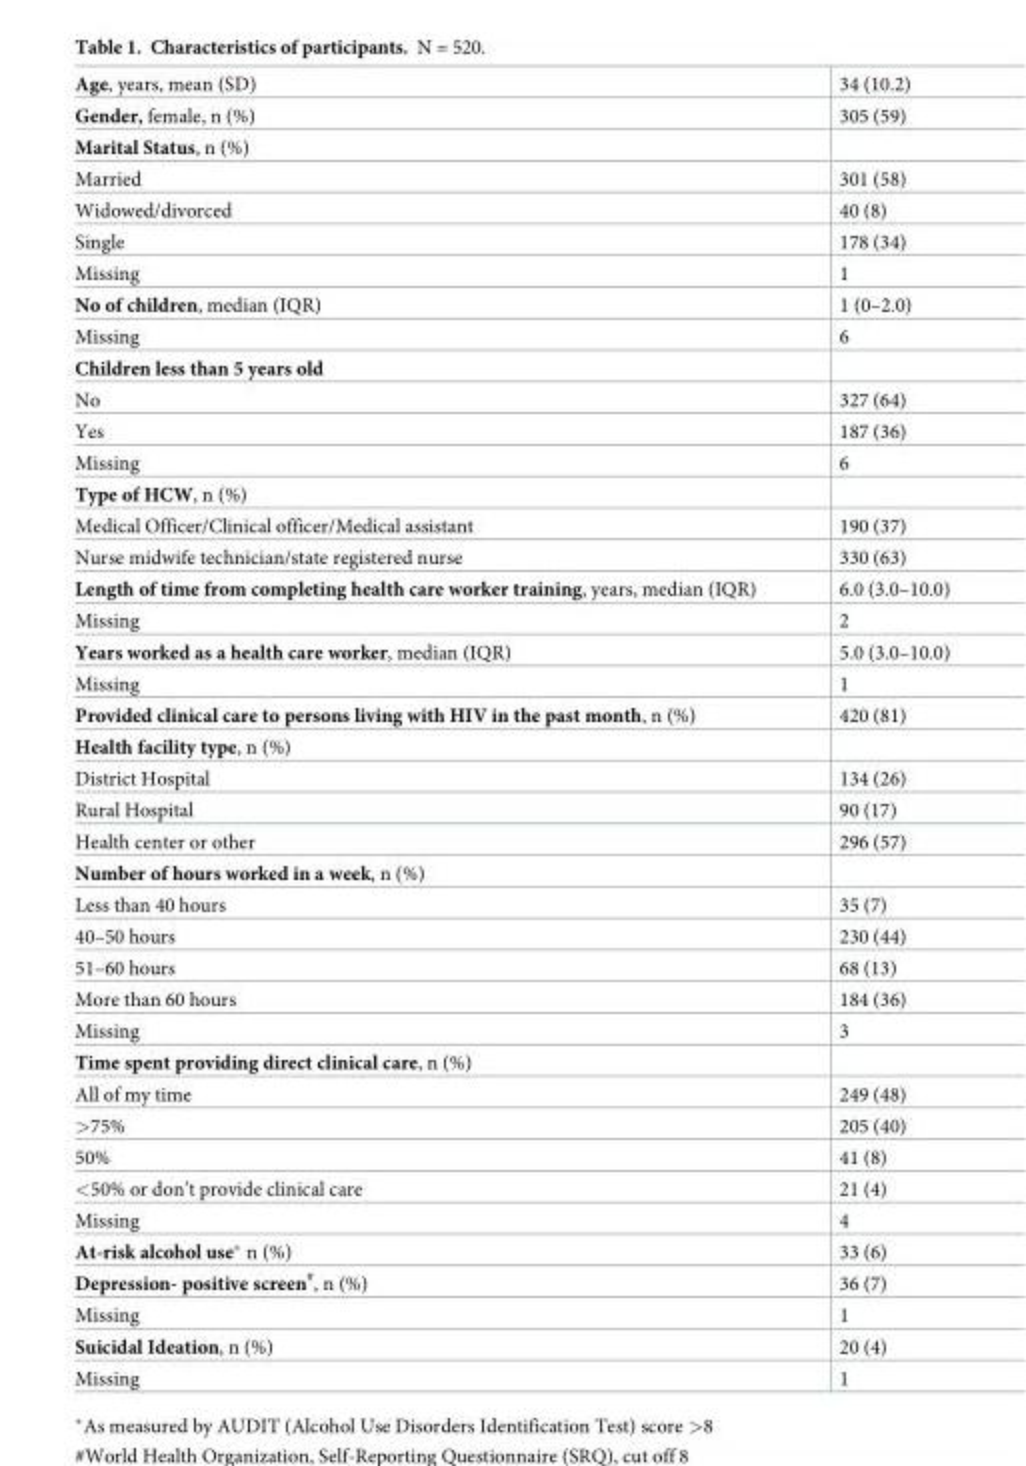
<table><tbody><tr><td>Age, years, mean (SD)</td><td>34 (10.2)</td></tr><tr><td>Gender, female, n (%)</td><td>305 (59)</td></tr><tr><td colspan="2">Marital Status, n (%)</td></tr><tr><td>Married</td><td>301 (58)</td></tr><tr><td>Widowed/divorced</td><td>40 (8)</td></tr><tr><td>Single</td><td>178 (34)</td></tr><tr><td>Missing</td><td>1</td></tr><tr><td>No of children, median (IQR)</td><td>1 (0–2.0)</td></tr><tr><td>Missing</td><td>6</td></tr><tr><td colspan="2">Children less than 5 years old</td></tr><tr><td>No</td><td>327 (64)</td></tr><tr><td>Yes</td><td>187 (36)</td></tr><tr><td>Missing</td><td>6</td></tr><tr><td colspan="2">Type of HCW, n (%)</td></tr><tr><td>Medical Officer/Clinical officer/Medical assistant</td><td>190 (37)</td></tr><tr><td>Nurse midwife technician/state registered nurse</td><td>330 (63)</td></tr><tr><td>Length of time from completing health care worker training, years, median (IQR)</td><td>6.0 (3.0–10.0)</td></tr><tr><td>Missing</td><td>2</td></tr><tr><td>Years worked as a health care worker, median (IQR)</td><td>5.0 (3.0–10.0)</td></tr><tr><td>Missing</td><td>1</td></tr><tr><td>Provided clinical care to persons living with HIV in the past month, n (%)</td><td>420 (81)</td></tr><tr><td colspan="2">Health facility type, n (%)</td></tr><tr><td>District Hospital</td><td>134 (26)</td></tr><tr><td>Rural Hospital</td><td>90 (17)</td></tr><tr><td>Health center or other</td><td>296 (57)</td></tr><tr><td colspan="2">Number of hours worked in a week, n (%)</td></tr><tr><td>Less than 40 hours</td><td>35 (7)</td></tr><tr><td>40–50 hours</td><td>230 (44)</td></tr><tr><td>51–60 hours</td><td>68 (13)</td></tr><tr><td>More than 60 hours</td><td>184 (36)</td></tr><tr><td>Missing</td><td>3</td></tr><tr><td colspan="2">Time spent providing direct clinical care, n (%)</td></tr><tr><td>All of my time</td><td>249 (48)</td></tr><tr><td>&gt;75%</td><td>205 (40)</td></tr><tr><td>50%</td><td>41 (8)</td></tr><tr><td>&lt;50% or don’t provide clinical care</td><td>21 (4)</td></tr><tr><td>Missing</td><td>4</td></tr><tr><td>At-risk alcohol use* n (%)</td><td>33 (6)</td></tr><tr><td>Depression- positive screen<sup>#</sup>, n (%)</td><td>36 (7)</td></tr><tr><td>Missing</td><td>1</td></tr><tr><td>Suicidal Ideation, n (%)</td><td>20 (4)</td></tr><tr><td>Missing</td><td>1</td></tr></tbody></table>